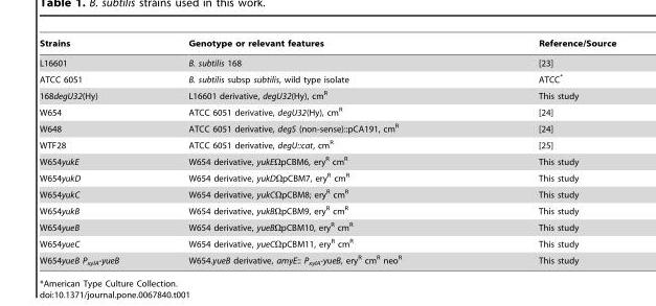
<table><thead><tr><td>Strains</td><td>Genotype or relevant features</td><td>Reference/Source</td></tr></thead><tbody><tr><td>L16601</td><td>B. subtilis 168</td><td>[23]</td></tr><tr><td>ATCC 6051</td><td>B. subtilis subsp subtilis, wild type isolate</td><td>ATCC*</td></tr><tr><td>168degU32(Hy)</td><td>L16601 derivative, degU32(Hy), cm<sup>R</sup></td><td>This study</td></tr><tr><td>W654</td><td>ATCC 6051 derivative, degU32(Hy), cm<sup>R</sup></td><td>[24]</td></tr><tr><td>W648</td><td>ATCC 6051 derivative, degS (non-sense)::pCA191, cm<sup>R</sup></td><td>[24]</td></tr><tr><td>WTF28</td><td>ATCC 6051 derivative, degU::cat, cm<sup>R</sup></td><td>[25]</td></tr><tr><td>W654yukE</td><td>W654 derivative, yukEΩpCBM6, ery<sup>R</sup> cm<sup>R</sup></td><td>This study</td></tr><tr><td>W654yukD</td><td>W654 derivative, yukDΩpCBM7, ery<sup>R</sup> cm<sup>R</sup></td><td>This study</td></tr><tr><td>W654yukC</td><td>W654 derivative, yukCΩpCBM8; ery<sup>R</sup> cm<sup>R</sup></td><td>This study</td></tr><tr><td>W654yukB</td><td>W654 derivative, yukBΩpCBM9, ery<sup>R</sup> cm<sup>R</sup></td><td>This study</td></tr><tr><td>W654yueB</td><td>W654 derivative, yueBΩpCBM10, ery<sup>R</sup> cm<sup>R</sup></td><td>This study</td></tr><tr><td>W654yueC</td><td>W654 derivative, yueCΩpCBM11, ery<sup>R</sup> cm<sup>R</sup></td><td>This study</td></tr><tr><td>W654yueB P<sub>xylA</sub>-yueB</td><td>W654.yueB derivative, amyE:: P<sub>xylA</sub>-yueB, ery<sup>R</sup> cm<sup>R</sup> neo<sup>R</sup></td><td>This study</td></tr></tbody></table>